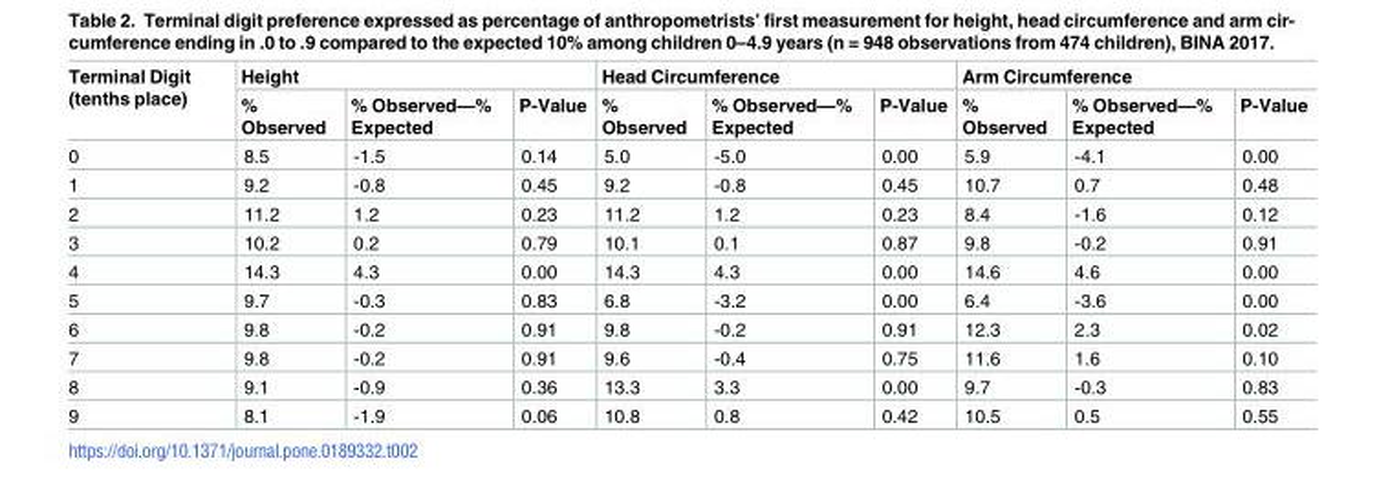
<table><thead><tr><td rowspan="2">Terminal Digit (tenths place)</td><td colspan="3">Height</td><td colspan="3">Head Circumference</td><td colspan="3">Arm Circumference</td></tr><tr><td>% Observed</td><td>% Observed—% Expected</td><td>P-Value</td><td>% Observed</td><td>% Observed—% Expected</td><td>P-Value</td><td>% Observed</td><td>% Observed—% Expected</td><td>P-Value</td></tr></thead><tbody><tr><td>0</td><td>8.5</td><td>-1.5</td><td>0.14</td><td>5.0</td><td>-5.0</td><td>0.00</td><td>5.9</td><td>-4.1</td><td>0.00</td></tr><tr><td>1</td><td>9.2</td><td>-0.8</td><td>0.45</td><td>9.2</td><td>-0.8</td><td>0.45</td><td>10.7</td><td>0.7</td><td>0.48</td></tr><tr><td>2</td><td>11.2</td><td>1.2</td><td>0.23</td><td>11.2</td><td>1.2</td><td>0.23</td><td>8.4</td><td>-1.6</td><td>0.12</td></tr><tr><td>3</td><td>10.2</td><td>0.2</td><td>0.79</td><td>10.1</td><td>0.1</td><td>0.87</td><td>9.8</td><td>-0.2</td><td>0.91</td></tr><tr><td>4</td><td>14.3</td><td>4.3</td><td>0.00</td><td>14.3</td><td>4.3</td><td>0.00</td><td>14.6</td><td>4.6</td><td>0.00</td></tr><tr><td>5</td><td>9.7</td><td>-0.3</td><td>0.83</td><td>6.8</td><td>-3.2</td><td>0.00</td><td>6.4</td><td>-3.6</td><td>0.00</td></tr><tr><td>6</td><td>9.8</td><td>-0.2</td><td>0.91</td><td>9.8</td><td>-0.2</td><td>0.91</td><td>12.3</td><td>2.3</td><td>0.02</td></tr><tr><td>7</td><td>9.8</td><td>-0.2</td><td>0.91</td><td>9.6</td><td>-0.4</td><td>0.75</td><td>11.6</td><td>1.6</td><td>0.10</td></tr><tr><td>8</td><td>9.1</td><td>-0.9</td><td>0.36</td><td>13.3</td><td>3.3</td><td>0.00</td><td>9.7</td><td>-0.3</td><td>0.83</td></tr><tr><td>9</td><td>8.1</td><td>-1.9</td><td>0.06</td><td>10.8</td><td>0.8</td><td>0.42</td><td>10.5</td><td>0.5</td><td>0.55</td></tr></tbody></table>